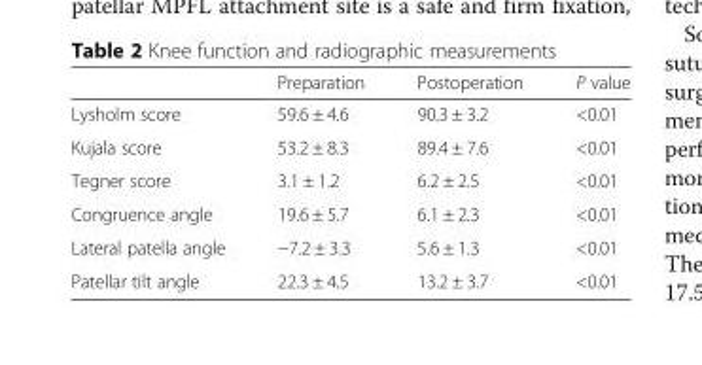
<table><thead><tr><td></td><td>Preparation</td><td>Postoperation</td><td>P value</td></tr></thead><tbody><tr><td>Lysholm score</td><td>59.6 ± 4.6</td><td>90.3 ± 3.2</td><td>&lt;0.01</td></tr><tr><td>Kujala score</td><td>53.2 ± 8.3</td><td>89.4 ± 7.6</td><td>&lt;0.01</td></tr><tr><td>Tegner score</td><td>3.1 ± 1.2</td><td>6.2 ± 2.5</td><td>&lt;0.01</td></tr><tr><td>Congruence angle</td><td>19.6 ± 5.7</td><td>6.1 ± 2.3</td><td>&lt;0.01</td></tr><tr><td>Lateral patella angle</td><td>−7.2 ± 3.3</td><td>5.6 ± 1.3</td><td>&lt;0.01</td></tr><tr><td>Patellar tilt angle</td><td>22.3 ± 4.5</td><td>13.2 ± 3.7</td><td>&lt;0.01</td></tr></tbody></table>